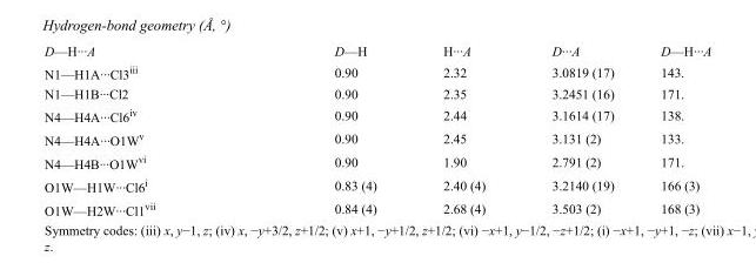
<table><tbody><tr><td>D—H···A</td><td>D—H</td><td>H···A</td><td>D···A</td><td>D—H···A</td></tr><tr><td>N1—H1A···Cl3<sup>iii</sup></td><td>0.90</td><td>2.32</td><td>3.0819 (17)</td><td>143.</td></tr><tr><td>N1—H1B···Cl2</td><td>0.90</td><td>2.35</td><td>3.2451 (16)</td><td>171.</td></tr><tr><td>N4—H4A···Cl6<sup>iv</sup></td><td>0.90</td><td>2.44</td><td>3.1614 (17)</td><td>138.</td></tr><tr><td>N4—H4A···O1W<sup>v</sup></td><td>0.90</td><td>2.45</td><td>3.131 (2)</td><td>133.</td></tr><tr><td>N4—H4B···O1W<sup>vi</sup></td><td>0.90</td><td>1.90</td><td>2.791 (2)</td><td>171.</td></tr><tr><td>O1W—H1W···Cl6<sup>i</sup></td><td>0.83 (4)</td><td>2.40 (4)</td><td>3.2140 (19)</td><td>166 (3)</td></tr><tr><td>O1W—H2W···Cl1<sup>vii</sup></td><td>0.84 (4)</td><td>2.68 (4)</td><td>3.503 (2)</td><td>168 (3)</td></tr></tbody></table>